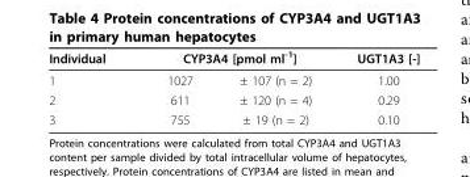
<table><thead><tr><td rowspan="2">Individual 1</td><td colspan="2">CYP3A4 [pmol ml<sup>-1</sup>]</td><td rowspan="2">UGT1A3 [-] 1.00</td></tr><tr><td>1027</td><td>± 107 (n = 2)</td></tr></thead><tbody><tr><td>2</td><td>611</td><td>± 120 (n = 4)</td><td>0.29</td></tr><tr><td>3</td><td>755</td><td>± 19 (n = 2)</td><td>0.10</td></tr></tbody></table>